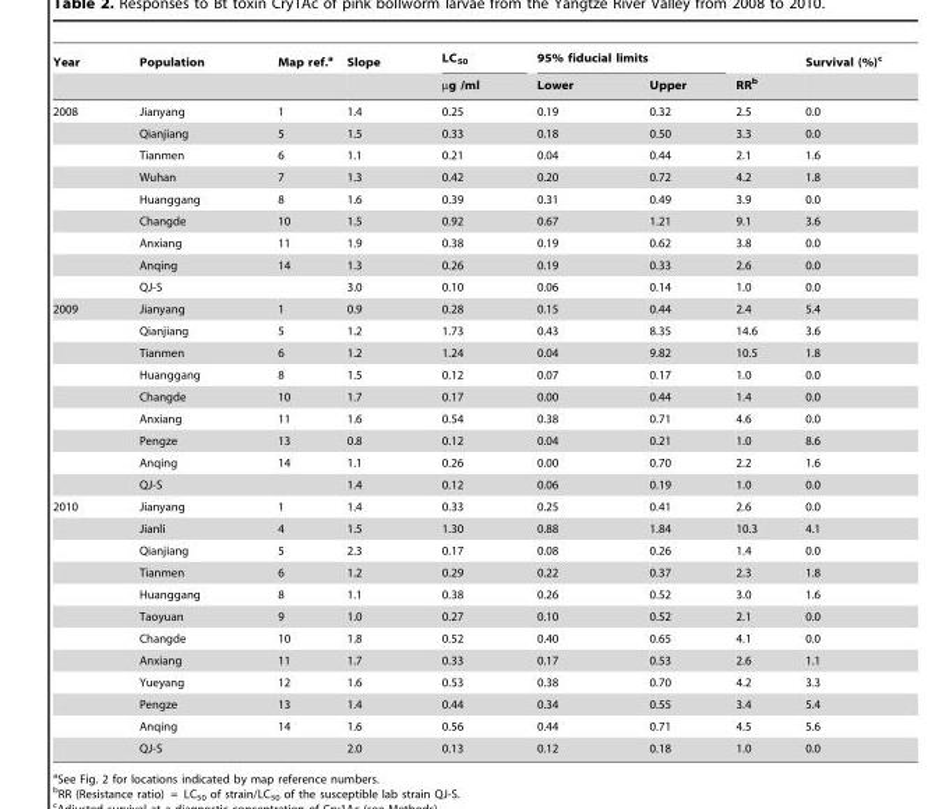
<table><thead><tr><td rowspan="2">Year</td><td rowspan="2">Population</td><td rowspan="2">Map ref.<sup>a</sup></td><td rowspan="2">Slope</td><td rowspan="2">LC<sub>50</sub> µg /ml</td><td colspan="2">95% fiducial limits</td><td rowspan="2">RR<sup>b</sup></td><td rowspan="2">Survival (%)<sup>c</sup></td></tr><tr><td>Lower</td><td>Upper</td></tr></thead><tbody><tr><td rowspan="9">2008</td><td>Jianyang</td><td>1</td><td>1.4</td><td>0.25</td><td>0.19</td><td>0.32</td><td>2.5</td><td>0.0</td></tr><tr><td>Qianjiang</td><td>5</td><td>1.5</td><td>0.33</td><td>0.18</td><td>0.50</td><td>3.3</td><td>0.0</td></tr><tr><td>Tianmen</td><td>6</td><td>1.1</td><td>0.21</td><td>0.04</td><td>0.44</td><td>2.1</td><td>1.6</td></tr><tr><td>Wuhan</td><td>7</td><td>1.3</td><td>0.42</td><td>0.20</td><td>0.72</td><td>4.2</td><td>1.8</td></tr><tr><td>Huanggang</td><td>8</td><td>1.6</td><td>0.39</td><td>0.31</td><td>0.49</td><td>3.9</td><td>0.0</td></tr><tr><td>Changde</td><td>10</td><td>1.5</td><td>0.92</td><td>0.67</td><td>1.21</td><td>9.1</td><td>3.6</td></tr><tr><td>Anxiang</td><td>11</td><td>1.9</td><td>0.38</td><td>0.19</td><td>0.62</td><td>3.8</td><td>0.0</td></tr><tr><td>Anqing</td><td>14</td><td>1.3</td><td>0.26</td><td>0.19</td><td>0.33</td><td>2.6</td><td>0.0</td></tr><tr><td>QJ-S</td><td></td><td>3.0</td><td>0.10</td><td>0.06</td><td>0.14</td><td>1.0</td><td>0.0</td></tr><tr><td rowspan="9">2009</td><td>Jianyang</td><td>1</td><td>0.9</td><td>0.28</td><td>0.15</td><td>0.44</td><td>2.4</td><td>5.4</td></tr><tr><td>Qianjiang</td><td>5</td><td>1.2</td><td>1.73</td><td>0.43</td><td>8.35</td><td>14.6</td><td>3.6</td></tr><tr><td>Tianmen</td><td>6</td><td>1.2</td><td>1.24</td><td>0.04</td><td>9.82</td><td>10.5</td><td>1.8</td></tr><tr><td>Huanggang</td><td>8</td><td>1.5</td><td>0.12</td><td>0.07</td><td>0.17</td><td>1.0</td><td>0.0</td></tr><tr><td>Changde</td><td>10</td><td>1.7</td><td>0.17</td><td>0.00</td><td>0.44</td><td>1.4</td><td>0.0</td></tr><tr><td>Anxiang</td><td>11</td><td>1.6</td><td>0.54</td><td>0.38</td><td>0.71</td><td>4.6</td><td>0.0</td></tr><tr><td>Pengze</td><td>13</td><td>0.8</td><td>0.12</td><td>0.04</td><td>0.21</td><td>1.0</td><td>8.6</td></tr><tr><td>Anqing</td><td>14</td><td>1.1</td><td>0.26</td><td>0.00</td><td>0.70</td><td>2.2</td><td>1.6</td></tr><tr><td>QJ-S</td><td></td><td>1.4</td><td>0.12</td><td>0.06</td><td>0.19</td><td>1.0</td><td>0.0</td></tr><tr><td rowspan="12">2010</td><td>Jianyang</td><td>1</td><td>1.4</td><td>0.33</td><td>0.25</td><td>0.41</td><td>2.6</td><td>0.0</td></tr><tr><td>Jianli</td><td>4</td><td>1.5</td><td>1.30</td><td>0.88</td><td>1.84</td><td>10.3</td><td>4.1</td></tr><tr><td>Qianjiang</td><td>5</td><td>2.3</td><td>0.17</td><td>0.08</td><td>0.26</td><td>1.4</td><td>0.0</td></tr><tr><td>Tianmen</td><td>6</td><td>1.2</td><td>0.29</td><td>0.22</td><td>0.37</td><td>2.3</td><td>1.8</td></tr><tr><td>Huanggang</td><td>8</td><td>1.1</td><td>0.38</td><td>0.26</td><td>0.52</td><td>3.0</td><td>1.6</td></tr><tr><td>Taoyuan</td><td>9</td><td>1.0</td><td>0.27</td><td>0.10</td><td>0.52</td><td>2.1</td><td>0.0</td></tr><tr><td>Changde</td><td>10</td><td>1.8</td><td>0.52</td><td>0.40</td><td>0.65</td><td>4.1</td><td>0.0</td></tr><tr><td>Anxiang</td><td>11</td><td>1.7</td><td>0.33</td><td>0.17</td><td>0.53</td><td>2.6</td><td>1.1</td></tr><tr><td>Yueyang</td><td>12</td><td>1.6</td><td>0.53</td><td>0.38</td><td>0.70</td><td>4.2</td><td>3.3</td></tr><tr><td>Pengze</td><td>13</td><td>1.4</td><td>0.44</td><td>0.34</td><td>0.55</td><td>3.4</td><td>5.4</td></tr><tr><td>Anqing</td><td>14</td><td>1.6</td><td>0.56</td><td>0.44</td><td>0.71</td><td>4.5</td><td>5.6</td></tr><tr><td>QJ-S</td><td></td><td>2.0</td><td>0.13</td><td>0.12</td><td>0.18</td><td>1.0</td><td>0.0</td></tr></tbody></table>